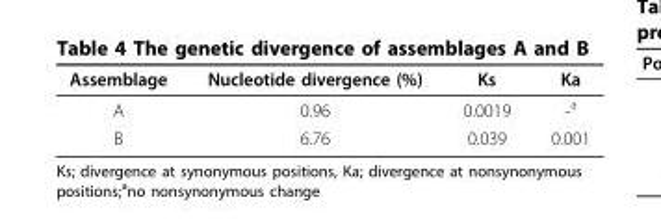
<table><thead><tr><td>Assemblage</td><td>Nucleotide divergence (%)</td><td>Ks</td><td>Ka</td></tr></thead><tbody><tr><td>A</td><td>0.96</td><td>0.0019</td><td>-<sup>a</sup></td></tr><tr><td>B</td><td>6.76</td><td>0.039</td><td>0.001</td></tr></tbody></table>